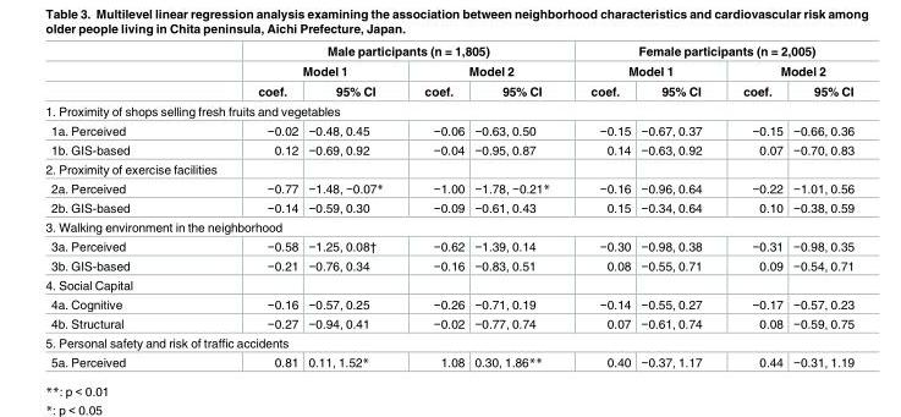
<table><thead><tr><td rowspan="3"></td><td colspan="4">Male participants (n = 1,805)</td><td colspan="4">Female participants (n = 2,005)</td></tr><tr><td colspan="2">Model 1</td><td colspan="2">Model 2</td><td colspan="2">Model 1</td><td colspan="2">Model 2</td></tr><tr><td>coef.</td><td>95% CI</td><td>coef.</td><td>95% CI</td><td>coef.</td><td>95% CI</td><td>coef.</td><td>95% CI</td></tr></thead><tbody><tr><td colspan="9">1. Proximity of shops selling fresh fruits and vegetables</td></tr><tr><td>1a. Perceived</td><td>−0.02</td><td>−0.48, 0.45</td><td>−0.06</td><td>−0.63, 0.50</td><td>−0.15</td><td>−0.67, 0.37</td><td>−0.15</td><td>−0.66, 0.36</td></tr><tr><td>1b. GIS-based</td><td>0.12</td><td>−0.69, 0.92</td><td>−0.04</td><td>−0.95, 0.87</td><td>0.14</td><td>−0.63, 0.92</td><td>0.07</td><td>−0.70, 0.83</td></tr><tr><td colspan="9">2. Proximity of exercise facilities</td></tr><tr><td>2a. Perceived</td><td>−0.77</td><td>−1.48, −0.07*</td><td>−1.00</td><td>−1.78, −0.21*</td><td>−0.16</td><td>−0.96, 0.64</td><td>−0.22</td><td>−1.01, 0.56</td></tr><tr><td>2b. GIS-based</td><td>−0.14</td><td>−0.59, 0.30</td><td>−0.09</td><td>−0.61, 0.43</td><td>0.15</td><td>−0.34, 0.64</td><td>0.10</td><td>−0.38, 0.59</td></tr><tr><td colspan="9">3. Walking environment in the neighborhood</td></tr><tr><td>3a. Perceived</td><td>−0.58</td><td>−1.25, 0.08†</td><td>−0.62</td><td>−1.39, 0.14</td><td>−0.30</td><td>−0.98, 0.38</td><td>−0.31</td><td>−0.98, 0.35</td></tr><tr><td>3b. GIS-based</td><td>−0.21</td><td>−0.76, 0.34</td><td>−0.16</td><td>−0.83, 0.51</td><td>0.08</td><td>−0.55, 0.71</td><td>0.09</td><td>−0.54, 0.71</td></tr><tr><td colspan="9">4. Social Capital</td></tr><tr><td>4a. Cognitive</td><td>−0.16</td><td>−0.57, 0.25</td><td>−0.26</td><td>−0.71, 0.19</td><td>−0.14</td><td>−0.55, 0.27</td><td>−0.17</td><td>−0.57, 0.23</td></tr><tr><td>4b. Structural</td><td>−0.27</td><td>−0.94, 0.41</td><td>−0.02</td><td>−0.77, 0.74</td><td>0.07</td><td>−0.61, 0.74</td><td>0.08</td><td>−0.59, 0.75</td></tr><tr><td colspan="9">5. Personal safety and risk of traffic accidents</td></tr><tr><td>5a. Perceived</td><td>0.81</td><td>0.11, 1.52*</td><td>1.08</td><td>0.30, 1.86**</td><td>0.40</td><td>−0.37, 1.17</td><td>0.44</td><td>−0.31, 1.19</td></tr></tbody></table>